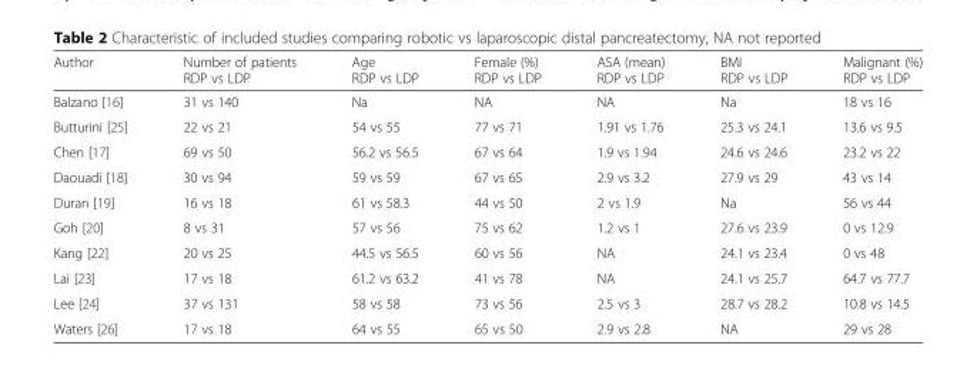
<table><thead><tr><td>Author</td><td>Number of patients RDP vs LDP</td><td>Age RDP vs LDP</td><td>Female (%) RDP vs LDP</td><td>ASA (mean) RDP vs LDP</td><td>BMI RDP vs LDP</td><td>Malignant (%) RDP vs LDP</td></tr></thead><tbody><tr><td>Balzano [16]</td><td>31 vs 140</td><td>Na</td><td>NA</td><td>NA</td><td>Na</td><td>18 vs 16</td></tr><tr><td>Butturini [25]</td><td>22 vs 21</td><td>54 vs 55</td><td>77 vs 71</td><td>1.91 vs 1.76</td><td>25.3 vs 24.1</td><td>13.6 vs 9.5</td></tr><tr><td>Chen [17]</td><td>69 vs 50</td><td>56.2 vs 56.5</td><td>67 vs 64</td><td>1.9 vs 1.94</td><td>24.6 vs 24.6</td><td>23.2 vs 22</td></tr><tr><td>Daouadi [18]</td><td>30 vs 94</td><td>59 vs 59</td><td>67 vs 65</td><td>2.9 vs 3.2</td><td>27.9 vs 29</td><td>43 vs 14</td></tr><tr><td>Duran [19]</td><td>16 vs 18</td><td>61 vs 58.3</td><td>44 vs 50</td><td>2 vs 1.9</td><td>Na</td><td>56 vs 44</td></tr><tr><td>Goh [20]</td><td>8 vs 31</td><td>57 vs 56</td><td>75 vs 62</td><td>1.2 vs 1</td><td>27.6 vs 23.9</td><td>0 vs 12.9</td></tr><tr><td>Kang [22]</td><td>20 vs 25</td><td>44.5 vs 56.5</td><td>60 vs 56</td><td>NA</td><td>24.1 vs 23.4</td><td>0 vs 48</td></tr><tr><td>Lai [23]</td><td>17 vs 18</td><td>61.2 vs 63.2</td><td>41 vs 78</td><td>NA</td><td>24.1 vs 25.7</td><td>64.7 vs 77.7</td></tr><tr><td>Lee [24]</td><td>37 vs 131</td><td>58 vs 58</td><td>73 vs 56</td><td>2.5 vs 3</td><td>28.7 vs 28.2</td><td>10.8 vs 14.5</td></tr><tr><td>Waters [26]</td><td>17 vs 18</td><td>64 vs 55</td><td>65 vs 50</td><td>2.9 vs 2.8</td><td>NA</td><td>29 vs 28</td></tr></tbody></table>